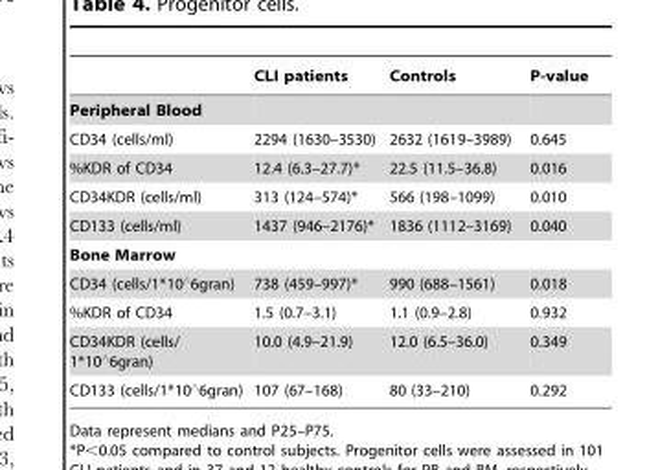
<table><thead><tr><td></td><td>CLI patients</td><td>Controls</td><td>P-value</td></tr></thead><tbody><tr><td colspan="4">Peripheral Blood</td></tr><tr><td>CD34 (cells/ml)</td><td>2294 (1630–3530)</td><td>2632 (1619–3989)</td><td>0.645</td></tr><tr><td>%KDR of CD34</td><td>12.4 (6.3–27.7)*</td><td>22.5 (11.5–36.8)</td><td>0.016</td></tr><tr><td>CD34KDR (cells/ml)</td><td>313 (124–574)*</td><td>566 (198–1099)</td><td>0.010</td></tr><tr><td>CD133 (cells/ml)</td><td>1437 (946–2176)*</td><td>1836 (1112–3169)</td><td>0.040</td></tr><tr><td colspan="4">Bone Marrow</td></tr><tr><td>CD34 (cells/1*10‘6gran)</td><td>738 (459–997)*</td><td>990 (688–1561)</td><td>0.018</td></tr><tr><td>%KDR of CD34</td><td>1.5 (0.7–3.1)</td><td>1.1 (0.9–2.8)</td><td>0.932</td></tr><tr><td>CD34KDR (cells/ 1*10‘6gran)</td><td>10.0 (4.9–21.9)</td><td>12.0 (6.5–36.0)</td><td>0.349</td></tr><tr><td>CD133 (cells/1*10‘6gran)</td><td>107 (67–168)</td><td>80 (33–210)</td><td>0.292</td></tr></tbody></table>